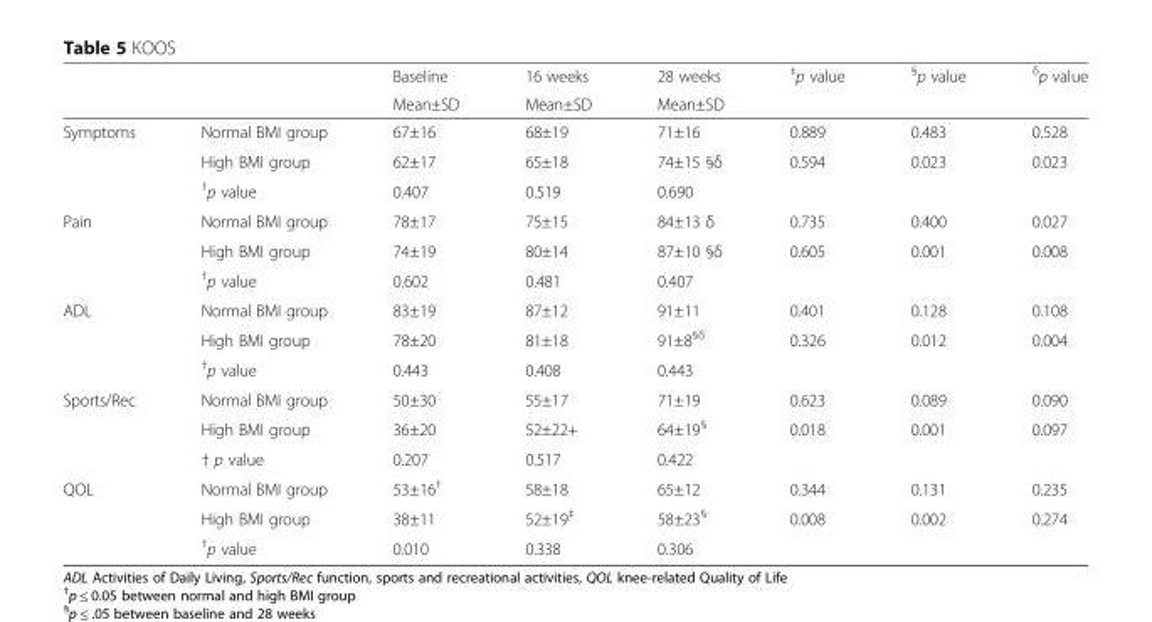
<table><thead><tr><td rowspan="2"></td><td rowspan="2"></td><td rowspan="2">Baseline Mean±SD</td><td rowspan="2">16 weeks Mean±SD</td><td rowspan="2">28 weeks Mean±SD</td><td rowspan="2"><sup>‡</sup>p value</td><td rowspan="2"><sup>§</sup>p value</td><td rowspan="2"><sup>δ</sup>p value</td></tr><tr></tr></thead><tbody><tr><td rowspan="3">Symptoms</td><td>Normal BMI group</td><td>67±16</td><td>68±19</td><td>71±16</td><td>0.889</td><td>0.483</td><td>0.528</td></tr><tr><td>High BMI group</td><td>62±17</td><td>65±18</td><td>74±15 §δ</td><td>0.594</td><td>0.023</td><td>0.023</td></tr><tr><td><sup>†</sup>p value</td><td>0.407</td><td>0.519</td><td>0.690</td><td></td><td></td><td></td></tr><tr><td rowspan="3">Pain</td><td>Normal BMI group</td><td>78±17</td><td>75±15</td><td>84±13 δ</td><td>0.735</td><td>0.400</td><td>0.027</td></tr><tr><td>High BMI group</td><td>74±19</td><td>80±14</td><td>87±10 §δ</td><td>0.605</td><td>0.001</td><td>0.008</td></tr><tr><td><sup>†</sup>p value</td><td>0.602</td><td>0.481</td><td>0.407</td><td></td><td></td><td></td></tr><tr><td rowspan="3">ADL</td><td>Normal BMI group</td><td>83±19</td><td>87±12</td><td>91±11</td><td>0.401</td><td>0.128</td><td>0.108</td></tr><tr><td>High BMI group</td><td>78±20</td><td>81±18</td><td>91±8<sup>§δ</sup></td><td>0.326</td><td>0.012</td><td>0.004</td></tr><tr><td><sup>†</sup>p value</td><td>0.443</td><td>0.408</td><td>0.443</td><td></td><td></td><td></td></tr><tr><td rowspan="3">Sports/Rec</td><td>Normal BMI group</td><td>50±30</td><td>55±17</td><td>71±19</td><td>0.623</td><td>0.089</td><td>0.090</td></tr><tr><td>High BMI group</td><td>36±20</td><td>52±22+</td><td>64±19<sup>§</sup></td><td>0.018</td><td>0.001</td><td>0.097</td></tr><tr><td>† p value</td><td>0.207</td><td>0.517</td><td>0.422</td><td></td><td></td><td></td></tr><tr><td rowspan="3">QOL</td><td>Normal BMI group</td><td>53±16<sup>†</sup></td><td>58±18</td><td>65±12</td><td>0.344</td><td>0.131</td><td>0.235</td></tr><tr><td>High BMI group</td><td>38±11</td><td>52±19<sup>‡</sup></td><td>58±23<sup>§</sup></td><td>0.008</td><td>0.002</td><td>0.274</td></tr><tr><td><sup>†</sup>p value</td><td>0.010</td><td>0.338</td><td>0.306</td><td></td><td></td><td></td></tr></tbody></table>